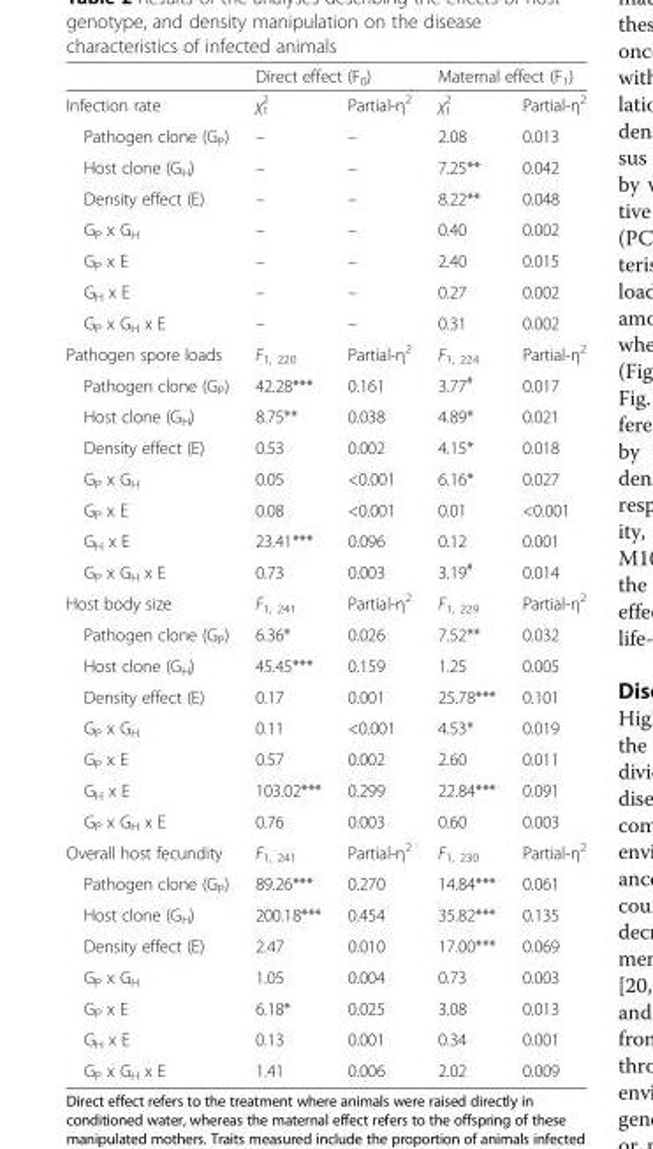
<table><thead><tr><td rowspan="2">Infection rate</td><td colspan="2">Direct effect (F<sub>0</sub>)</td><td colspan="2">Maternal effect (F<sub>1</sub>)</td></tr><tr><td>χ<sup>2</sup> <sub>1</sub></td><td>Partial-η<sup>2</sup></td><td>χ<sup>2</sup> <sub>1</sub></td><td>Partial-η<sup>2</sup></td></tr></thead><tbody><tr><td>Pathogen clone (G<sub>P</sub>)</td><td>–</td><td>–</td><td>2.08</td><td>0.013</td></tr><tr><td>Host clone (G<sub>H</sub>)</td><td>–</td><td>–</td><td>7.25**</td><td>0.042</td></tr><tr><td>Density effect (E)</td><td>–</td><td>–</td><td>8.22**</td><td>0.048</td></tr><tr><td>G<sub>P</sub> x G<sub>H</sub></td><td>–</td><td>–</td><td>0.40</td><td>0.002</td></tr><tr><td>G<sub>P</sub> x E</td><td>–</td><td>–</td><td>2.40</td><td>0.015</td></tr><tr><td>G<sub>H</sub> x E</td><td>–</td><td>–</td><td>0.27</td><td>0.002</td></tr><tr><td>G<sub>P</sub> x G<sub>H</sub> x E</td><td>–</td><td>–</td><td>0.31</td><td>0.002</td></tr><tr><td>Pathogen spore loads</td><td>F<sub>1, 220</sub></td><td>Partial-η<sup>2</sup></td><td>F<sub>1, 224</sub></td><td>Partial-η<sup>2</sup></td></tr><tr><td>Pathogen clone (G<sub>P</sub>)</td><td>42.28***</td><td>0.161</td><td>3.77<sup>#</sup></td><td>0.017</td></tr><tr><td>Host clone (G<sub>H</sub>)</td><td>8.75**</td><td>0.038</td><td>4.89*</td><td>0.021</td></tr><tr><td>Density effect (E)</td><td>0.53</td><td>0.002</td><td>4.15*</td><td>0.018</td></tr><tr><td>G<sub>P</sub> x G<sub>H</sub></td><td>0.05</td><td>&lt;0.001</td><td>6.16*</td><td>0.027</td></tr><tr><td>G<sub>P</sub> x E</td><td>0.08</td><td>&lt;0.001</td><td>0.01</td><td>&lt;0.001</td></tr><tr><td>G<sub>H</sub> x E</td><td>23.41***</td><td>0.096</td><td>0.12</td><td>0.001</td></tr><tr><td>G<sub>P</sub> x G<sub>H</sub> x E</td><td>0.73</td><td>0.003</td><td>3.19<sup>#</sup></td><td>0.014</td></tr><tr><td>Host body size</td><td>F<sub>1, 241</sub></td><td>Partial-η<sup>2</sup></td><td>F<sub>1, 229</sub></td><td>Partial-η<sup>2</sup></td></tr><tr><td>Pathogen clone (G<sub>P</sub>)</td><td>6.36*</td><td>0.026</td><td>7.52**</td><td>0.032</td></tr><tr><td>Host clone (G<sub>H</sub>)</td><td>45.45***</td><td>0.159</td><td>1.25</td><td>0.005</td></tr><tr><td>Density effect (E)</td><td>0.17</td><td>0.001</td><td>25.78***</td><td>0.101</td></tr><tr><td>G<sub>P</sub> x G<sub>H</sub></td><td>0.11</td><td>&lt;0.001</td><td>4.53*</td><td>0.019</td></tr><tr><td>G<sub>P</sub> x E</td><td>0.57</td><td>0.002</td><td>2.60</td><td>0.011</td></tr><tr><td>G<sub>H</sub> x E</td><td>103.02***</td><td>0.299</td><td>22.84***</td><td>0.091</td></tr><tr><td>G<sub>P</sub> x G<sub>H</sub> x E</td><td>0.76</td><td>0.003</td><td>0.60</td><td>0.003</td></tr><tr><td>Overall host fecundity</td><td>F<sub>1, 241</sub></td><td>Partial-η<sup>2</sup></td><td>F<sub>1, 230</sub></td><td>Partial-η<sup>2</sup></td></tr><tr><td>Pathogen clone (G<sub>P</sub>)</td><td>89.26***</td><td>0.270</td><td>14.84***</td><td>0.061</td></tr><tr><td>Host clone (G<sub>H</sub>)</td><td>200.18***</td><td>0.454</td><td>35.82***</td><td>0.135</td></tr><tr><td>Density effect (E)</td><td>2.47</td><td>0.010</td><td>17.00***</td><td>0.069</td></tr><tr><td>G<sub>P</sub> x G<sub>H</sub></td><td>1.05</td><td>0.004</td><td>0.73</td><td>0.003</td></tr><tr><td>G<sub>P</sub> x E</td><td>6.18*</td><td>0.025</td><td>3.08</td><td>0.013</td></tr><tr><td>G<sub>H</sub> x E</td><td>0.13</td><td>0.001</td><td>0.34</td><td>0.001</td></tr><tr><td>G<sub>P</sub> x G<sub>H</sub> x E</td><td>1.41</td><td>0.006</td><td>2.02</td><td>0.009</td></tr></tbody></table>